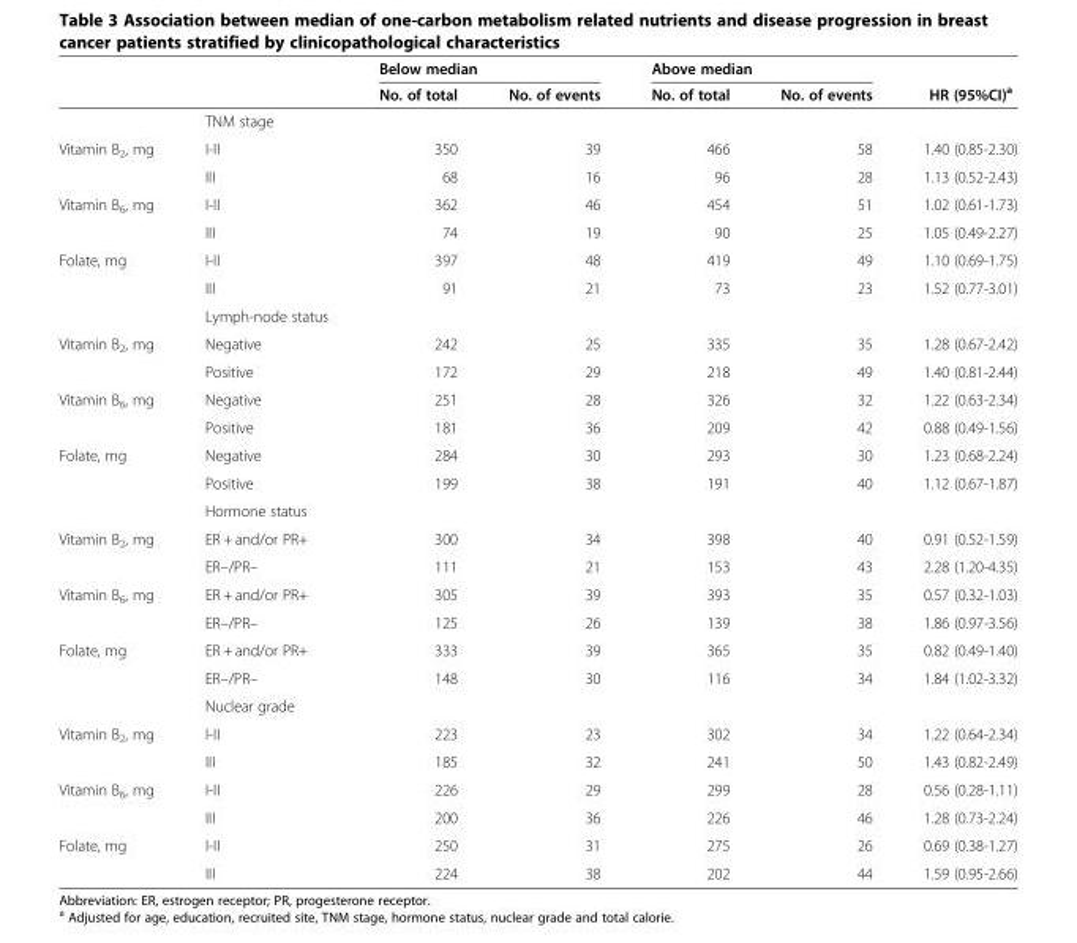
<table><thead><tr><td rowspan="2"></td><td rowspan="2"></td><td colspan="2">Below median</td><td colspan="2">Above median</td><td rowspan="2">HR (95%CI)<sup>a</sup></td></tr><tr><td>No. of total</td><td>No. of events</td><td>No. of total</td><td>No. of events</td></tr></thead><tbody><tr><td></td><td>TNM stage</td><td></td><td></td><td></td><td></td><td></td></tr><tr><td rowspan="2">Vitamin B<sub>2</sub>, mg</td><td>I-II</td><td>350</td><td>39</td><td>466</td><td>58</td><td>1.40 (0.85-2.30)</td></tr><tr><td>III</td><td>68</td><td>16</td><td>96</td><td>28</td><td>1.13 (0.52-2.43)</td></tr><tr><td rowspan="2">Vitamin B<sub>6</sub>, mg</td><td>I-II</td><td>362</td><td>46</td><td>454</td><td>51</td><td>1.02 (0.61-1.73)</td></tr><tr><td>III</td><td>74</td><td>19</td><td>90</td><td>25</td><td>1.05 (0.49-2.27)</td></tr><tr><td rowspan="3">Folate, mg</td><td>I-II</td><td>397</td><td>48</td><td>419</td><td>49</td><td>1.10 (0.69-1.75)</td></tr><tr><td>III</td><td>91</td><td>21</td><td>73</td><td>23</td><td>1.52 (0.77-3.01)</td></tr><tr><td>Lymph-node status</td><td></td><td></td><td></td><td></td><td></td></tr><tr><td rowspan="2">Vitamin B<sub>2</sub>, mg</td><td>Negative</td><td>242</td><td>25</td><td>335</td><td>35</td><td>1.28 (0.67-2.42)</td></tr><tr><td>Positive</td><td>172</td><td>29</td><td>218</td><td>49</td><td>1.40 (0.81-2.44)</td></tr><tr><td rowspan="2">Vitamin B<sub>6</sub>, mg</td><td>Negative</td><td>251</td><td>28</td><td>326</td><td>32</td><td>1.22 (0.63-2.34)</td></tr><tr><td>Positive</td><td>181</td><td>36</td><td>209</td><td>42</td><td>0.88 (0.49-1.56)</td></tr><tr><td rowspan="3">Folate, mg</td><td>Negative</td><td>284</td><td>30</td><td>293</td><td>30</td><td>1.23 (0.68-2.24)</td></tr><tr><td>Positive</td><td>199</td><td>38</td><td>191</td><td>40</td><td>1.12 (0.67-1.87)</td></tr><tr><td>Hormone status</td><td></td><td></td><td></td><td></td><td></td></tr><tr><td rowspan="2">Vitamin B<sub>2</sub>, mg</td><td>ER + and/or PR+</td><td>300</td><td>34</td><td>398</td><td>40</td><td>0.91 (0.52-1.59)</td></tr><tr><td>ER–/PR–</td><td>111</td><td>21</td><td>153</td><td>43</td><td>2.28 (1.20-4.35)</td></tr><tr><td rowspan="2">Vitamin B<sub>6</sub>, mg</td><td>ER + and/or PR+</td><td>305</td><td>39</td><td>393</td><td>35</td><td>0.57 (0.32-1.03)</td></tr><tr><td>ER–/PR–</td><td>125</td><td>26</td><td>139</td><td>38</td><td>1.86 (0.97-3.56)</td></tr><tr><td rowspan="3">Folate, mg</td><td>ER + and/or PR+</td><td>333</td><td>39</td><td>365</td><td>35</td><td>0.82 (0.49-1.40)</td></tr><tr><td>ER–/PR–</td><td>148</td><td>30</td><td>116</td><td>34</td><td>1.84 (1.02-3.32)</td></tr><tr><td>Nuclear grade</td><td></td><td></td><td></td><td></td><td></td></tr><tr><td rowspan="2">Vitamin B<sub>2</sub>, mg</td><td>I-II</td><td>223</td><td>23</td><td>302</td><td>34</td><td>1.22 (0.64-2.34)</td></tr><tr><td>III</td><td>185</td><td>32</td><td>241</td><td>50</td><td>1.43 (0.82-2.49)</td></tr><tr><td rowspan="2">Vitamin B<sub>6</sub>, mg</td><td>I-II</td><td>226</td><td>29</td><td>299</td><td>28</td><td>0.56 (0.28-1.11)</td></tr><tr><td>III</td><td>200</td><td>36</td><td>226</td><td>46</td><td>1.28 (0.73-2.24)</td></tr><tr><td rowspan="2">Folate, mg</td><td>I-II</td><td>250</td><td>31</td><td>275</td><td>26</td><td>0.69 (0.38-1.27)</td></tr><tr><td>III</td><td>224</td><td>38</td><td>202</td><td>44</td><td>1.59 (0.95-2.66)</td></tr></tbody></table>